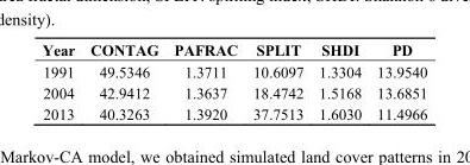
<table><thead><tr><td>Year</td><td>CONTAG</td><td>PAFRAC</td><td>SPLIT</td><td>SHDI</td><td>PD</td></tr></thead><tbody><tr><td>1991</td><td>49.5346</td><td>1.3711</td><td>10.6097</td><td>1.3304</td><td>13.9540</td></tr><tr><td>2004</td><td>42.9412</td><td>1.3637</td><td>18.4742</td><td>1.5168</td><td>13.6851</td></tr><tr><td>2013</td><td>40.3263</td><td>1.3920</td><td>37.7513</td><td>1.6030</td><td>11.4966</td></tr></tbody></table>